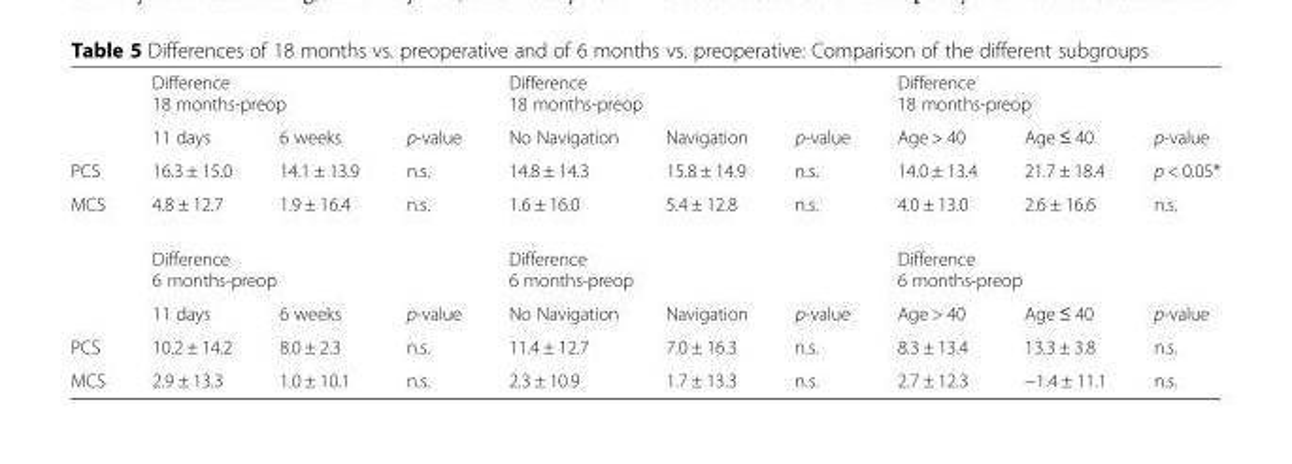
<table><thead><tr><td rowspan="2"></td><td colspan="3">Difference 18 months-preop</td><td colspan="3">Difference 18 months-preop</td><td colspan="3">Difference 18 months-preop</td></tr><tr><td>11 days</td><td>6 weeks</td><td>p-value</td><td>No Navigation</td><td>Navigation</td><td>p-value</td><td>Age &gt; 40</td><td>Age ≤ 40</td><td>p-value</td></tr></thead><tbody><tr><td>PCS</td><td>16.3 ± 15.0</td><td>14.1 ± 13.9</td><td>n.s.</td><td>14.8 ± 14.3</td><td>15.8 ± 14.9</td><td>n.s.</td><td>14.0 ± 13.4</td><td>21.7 ± 18.4</td><td>p &lt; 0.05*</td></tr><tr><td rowspan="3">MCS</td><td>4.8 ± 12.7</td><td>1.9 ± 16.4</td><td>n.s.</td><td>1.6 ± 16.0</td><td>5.4 ± 12.8</td><td>n.s.</td><td>4.0 ± 13.0</td><td>2.6 ± 16.6</td><td>n.s.</td></tr><tr><td colspan="3">Difference 6 months-preop</td><td colspan="3">Difference 6 months-preop</td><td colspan="3">Difference 6 months-preop</td></tr><tr><td>11 days</td><td>6 weeks</td><td>p-value</td><td>No Navigation</td><td>Navigation</td><td>p-value</td><td>Age &gt; 40</td><td>Age ≤ 40</td><td>p-value</td></tr><tr><td>PCS</td><td>10.2 ± 14.2</td><td>8.0 ± 2.3</td><td>n.s.</td><td>11.4 ± 12.7</td><td>7.0 ± 16.3</td><td>n.s.</td><td>8.3 ± 13.4</td><td>13.3 ± 3.8</td><td>n.s.</td></tr><tr><td>MCS</td><td>2.9 ± 13.3</td><td>1.0 ± 10.1</td><td>n.s.</td><td>2.3 ± 10.9</td><td>1.7 ± 13.3</td><td>n.s.</td><td>2.7 ± 12.3</td><td>−1.4 ± 11.1</td><td>n.s.</td></tr></tbody></table>